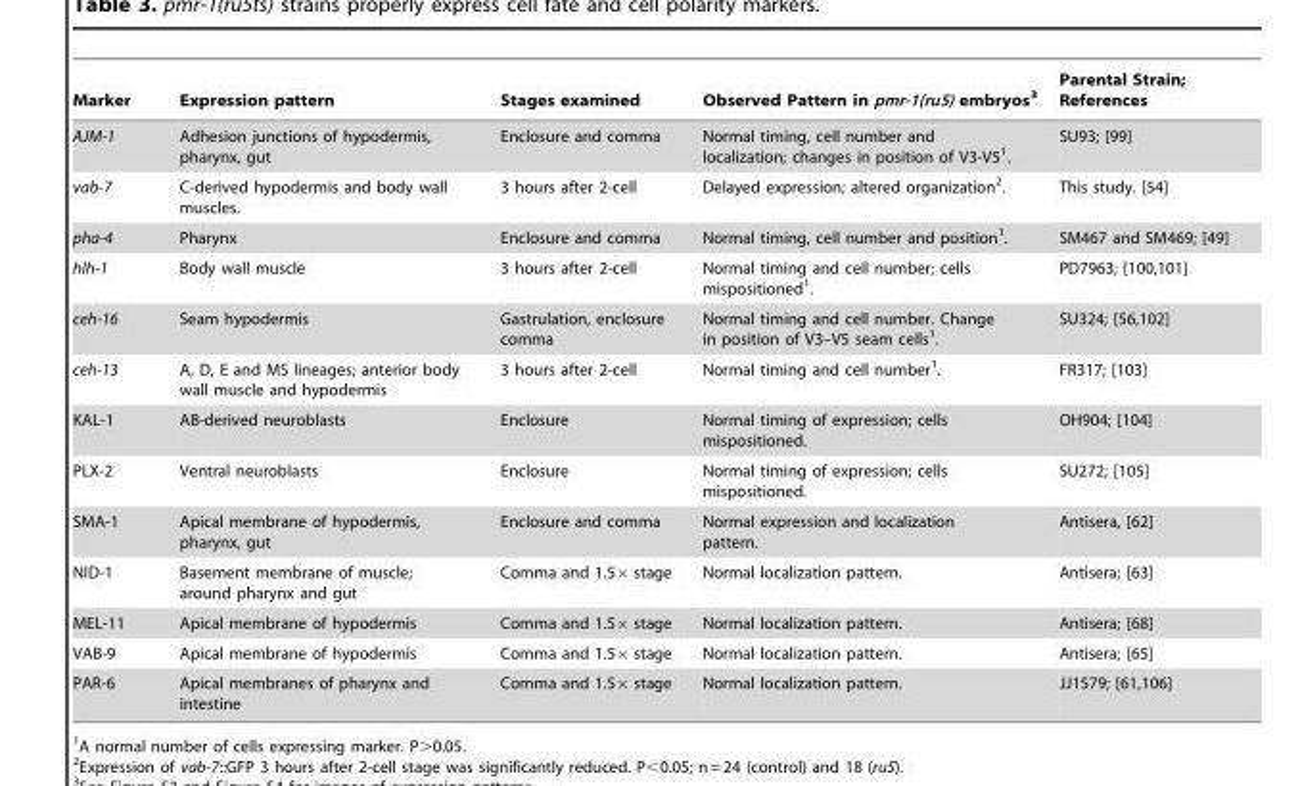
<table><thead><tr><td>Marker</td><td>Expression pattern</td><td>Stages examined</td><td>Observed Pattern in pmr-1(ru5) embryos<sup>3</sup></td><td>Parental Strain; References</td></tr></thead><tbody><tr><td>AJM-1</td><td>Adhesion junctions of hypodermis, pharynx, gut</td><td>Enclosure and comma</td><td>Normal timing, cell number and localization; changes in position of V3-V5<sup>1</sup>.</td><td>SU93; [99]</td></tr><tr><td>vab-7</td><td>C-derived hypodermis and body wall muscles.</td><td>3 hours after 2-cell</td><td>Delayed expression; altered organization<sup>2</sup>.</td><td>This study. [54]</td></tr><tr><td>pha-4</td><td>Pharynx</td><td>Enclosure and comma</td><td>Normal timing, cell number and position<sup>1</sup>.</td><td>SM467 and SM469; [49]</td></tr><tr><td>hlh-1</td><td>Body wall muscle</td><td>3 hours after 2-cell</td><td>Normal timing and cell number; cells mispositioned<sup>1</sup>.</td><td>PD7963; [100,101]</td></tr><tr><td>ceh-16</td><td>Seam hypodermis</td><td>Gastrulation, enclosure comma</td><td>Normal timing and cell number. Change in position of V3–V5 seam cells<sup>1</sup>.</td><td>SU324; [56,102]</td></tr><tr><td>ceh-13</td><td>A, D, E and MS lineages; anterior body wall muscle and hypodermis</td><td>3 hours after 2-cell</td><td>Normal timing and cell number<sup>1</sup>.</td><td>FR317; [103]</td></tr><tr><td>KAL-1</td><td>AB-derived neuroblasts</td><td>Enclosure</td><td>Normal timing of expression; cells mispositioned.</td><td>OH904; [104]</td></tr><tr><td>PLX-2</td><td>Ventral neuroblasts</td><td>Enclosure</td><td>Normal timing of expression; cells mispositioned.</td><td>SU272; [105]</td></tr><tr><td>SMA-1</td><td>Apical membrane of hypodermis, pharynx, gut</td><td>Enclosure and comma</td><td>Normal expression and localization pattern.</td><td>Antisera, [62]</td></tr><tr><td>NID-1</td><td>Basement membrane of muscle; around pharynx and gut</td><td>Comma and 1.5× stage</td><td>Normal localization pattern.</td><td>Antisera; [63]</td></tr><tr><td>MEL-11</td><td>Apical membrane of hypodermis</td><td>Comma and 1.5× stage</td><td>Normal localization pattern.</td><td>Antisera; [68]</td></tr><tr><td>VAB-9</td><td>Apical membrane of hypodermis</td><td>Comma and 1.5× stage</td><td>Normal localization pattern.</td><td>Antisera; [65]</td></tr><tr><td>PAR-6</td><td>Apical membranes of pharynx and intestine</td><td>Comma and 1.5× stage</td><td>Normal localization pattern.</td><td>JJ1579; [61,106]</td></tr></tbody></table>